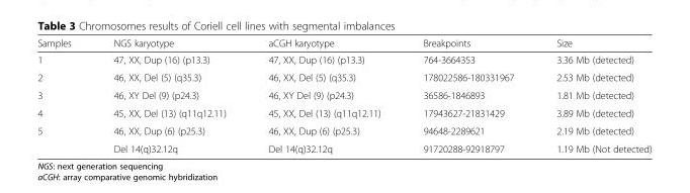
<table><thead><tr><td>Samples</td><td>NGS karyotype</td><td>aCGH karyotype</td><td>Breakpoints</td><td>Size</td></tr></thead><tbody><tr><td>1</td><td>47, XX, Dup (16) (p13.3)</td><td>47, XX, Dup (16) (p13.3)</td><td>764-3664353</td><td>3.36 Mb (detected)</td></tr><tr><td>2</td><td>46, XX, Del (5) (q35.3)</td><td>46, XX, Del (5) (q35.3)</td><td>178022586-180331967</td><td>2.53 Mb (detected)</td></tr><tr><td>3</td><td>46, XY Del (9) (p24.3)</td><td>46, XY Del (9) (p24.3)</td><td>36586-1846893</td><td>1.81 Mb (detected)</td></tr><tr><td>4</td><td>45, XX, Del (13) (q11q12.11)</td><td>45, XX, Del (13) (q11q12.11)</td><td>17943627-21831429</td><td>3.89 Mb (detected)</td></tr><tr><td rowspan="2">5</td><td>46, XX, Dup (6) (p25.3)</td><td>46, XX, Dup (6) (p25.3)</td><td>94648-2289621</td><td>2.19 Mb (detected)</td></tr><tr><td>Del 14(q)32.12q</td><td>Del 14(q)32.12q</td><td>91720288-92918797</td><td>1.19 Mb (Not detected)</td></tr></tbody></table>